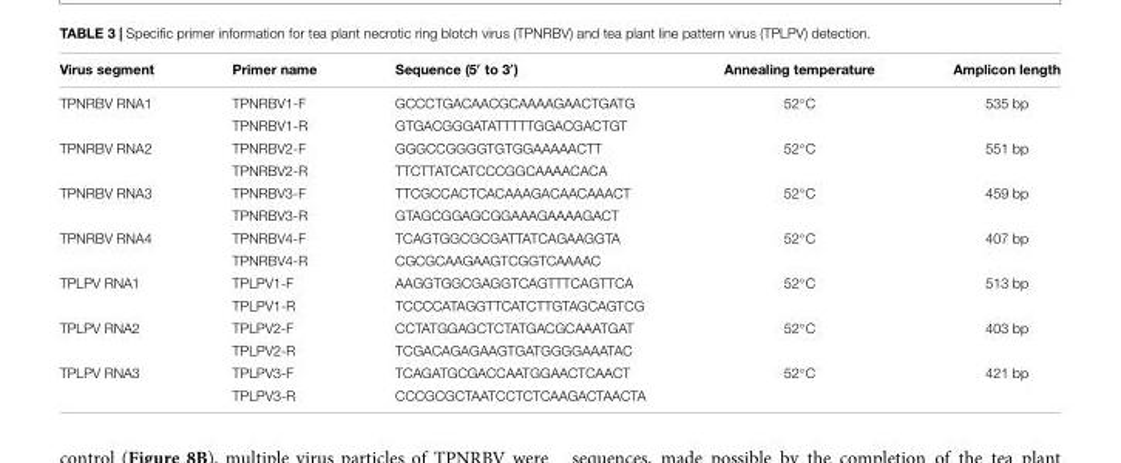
<table><thead><tr><td>Virus segment</td><td>Primer name</td><td>Sequence (5′ to 3′)</td><td>Annealing temperature</td><td>Amplicon length</td></tr></thead><tbody><tr><td rowspan="2">TPNRBV RNA1</td><td>TPNRBV1-F</td><td>GCCCTGACAACGCAAAAGAACTGATG</td><td>52◦C</td><td>535 bp</td></tr><tr><td>TPNRBV1-R</td><td>GTGACGGGATATTTTTGGACGACTGT</td><td></td><td></td></tr><tr><td rowspan="2">TPNRBV RNA2</td><td>TPNRBV2-F</td><td>GGGCCGGGGTGTGGAAAAACTT</td><td>52◦C</td><td>551 bp</td></tr><tr><td>TPNRBV2-R</td><td>TTCTTATCATCCCGGCAAAACACA</td><td></td><td></td></tr><tr><td rowspan="2">TPNRBV RNA3</td><td>TPNRBV3-F</td><td>TTCGCCACTCACAAAGACAACAAACT</td><td>52◦C</td><td>459 bp</td></tr><tr><td>TPNRBV3-R</td><td>GTAGCGGAGCGGAAAGAAAAGACT</td><td></td><td></td></tr><tr><td rowspan="2">TPNRBV RNA4</td><td>TPNRBV4-F</td><td>TCAGTGGCGCGATTATCAGAAGGTA</td><td>52◦C</td><td>407 bp</td></tr><tr><td>TPNRBV4-R</td><td>CGCGCAAGAAGTCGGTCAAAAC</td><td></td><td></td></tr><tr><td rowspan="2">TPLPV RNA1</td><td>TPLPV1-F</td><td>AAGGTGGCGAGGTCAGTTTCAGTTCA</td><td>52◦C</td><td>513 bp</td></tr><tr><td>TPLPV1-R</td><td>TCCCCATAGGTTCATCTTGTAGCAGTCG</td><td></td><td></td></tr><tr><td rowspan="2">TPLPV RNA2</td><td>TPLPV2-F</td><td>CCTATGGAGCTCTATGACGCAAATGAT</td><td>52◦C</td><td>403 bp</td></tr><tr><td>TPLPV2-R</td><td>TCGACAGAGAAGTGATGGGGAAATAC</td><td></td><td></td></tr><tr><td rowspan="2">TPLPV RNA3</td><td>TPLPV3-F</td><td>TCAGATGCGACCAATGGAACTCAACT</td><td>52◦C</td><td>421 bp</td></tr><tr><td>TPLPV3-R</td><td>CCCGCGCTAATCCTCTCAAGACTAACTA</td><td></td><td></td></tr></tbody></table>